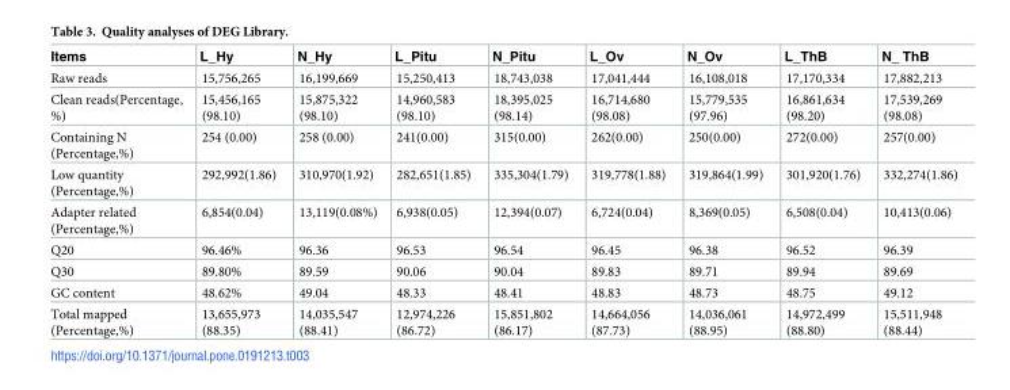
<table><thead><tr><td>Items</td><td>L_Hy</td><td>N_Hy</td><td>L_Pitu</td><td>N_Pitu</td><td>L_Ov</td><td>N_Ov</td><td>L_ThB</td><td>N_ ThB</td></tr></thead><tbody><tr><td>Raw reads</td><td>15,756,265</td><td>16,199,669</td><td>15,250,413</td><td>18,743,038</td><td>17,041,444</td><td>16,108,018</td><td>17,170,334</td><td>17,882,213</td></tr><tr><td>Clean reads(Percentage, %)</td><td>15,456,165 (98.10)</td><td>15,875,322 (98.10)</td><td>14,960,583 (98.10)</td><td>18,395,025 (98.14)</td><td>16,714,680 (98.08)</td><td>15,779,535 (97.96)</td><td>16,861,634 (98.20)</td><td>17,539,269 (98.08)</td></tr><tr><td>Containing N (Percentage,%)</td><td>254 (0.00)</td><td>258 (0.00)</td><td>241(0.00)</td><td>315(0.00)</td><td>262(0.00)</td><td>250(0.00)</td><td>272(0.00)</td><td>257(0.00)</td></tr><tr><td>Low quantity (Percentage,%)</td><td>292,992(1.86)</td><td>310,970(1.92)</td><td>282,651(1.85)</td><td>335,304(1.79)</td><td>319,778(1.88)</td><td>319,864(1.99)</td><td>301,920(1.76)</td><td>332,274(1.86)</td></tr><tr><td>Adapter related (Percentage,%)</td><td>6,854(0.04)</td><td>13,119(0.08%)</td><td>6,938(0.05)</td><td>12,394(0.07)</td><td>6,724(0.04)</td><td>8,369(0.05)</td><td>6,508(0.04)</td><td>10,413(0.06)</td></tr><tr><td>Q20</td><td>96.46%</td><td>96.36</td><td>96.53</td><td>96.54</td><td>96.45</td><td>96.38</td><td>96.52</td><td>96.39</td></tr><tr><td>Q30</td><td>89.80%</td><td>89.59</td><td>90.06</td><td>90.04</td><td>89.83</td><td>89.71</td><td>89.94</td><td>89.69</td></tr><tr><td>GC content</td><td>48.62%</td><td>49.04</td><td>48.33</td><td>48.41</td><td>48.83</td><td>48.73</td><td>48.75</td><td>49.12</td></tr><tr><td>Total mapped (Percentage,%)</td><td>13,655,973 (88.35)</td><td>14,035,547 (88.41)</td><td>12,974,226 (86.72)</td><td>15,851,802 (86.17)</td><td>14,664,056 (87.73)</td><td>14,036,061 (88.95)</td><td>14,972,499 (88.80)</td><td>15,511,948 (88.44)</td></tr></tbody></table>